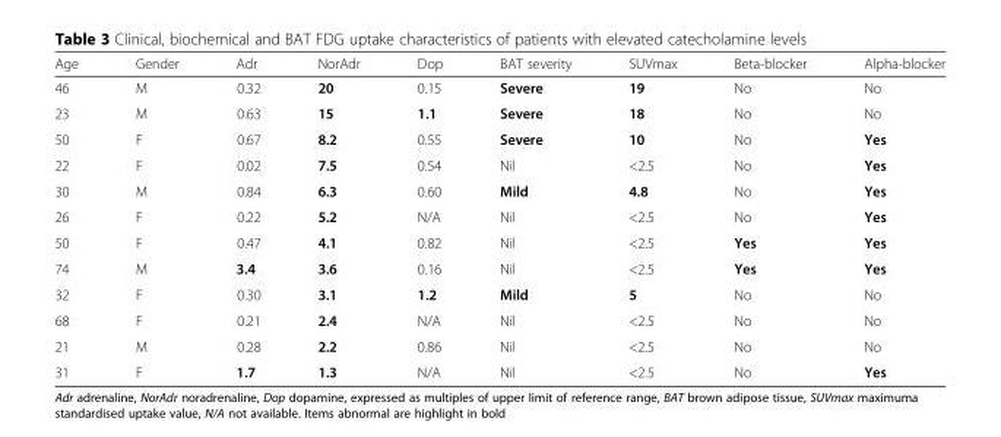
<table><thead><tr><td>Age</td><td>Gender</td><td>Adr</td><td>NorAdr</td><td>Dop</td><td>BAT severity</td><td>SUVmax</td><td>Beta-blocker</td><td>Alpha-blocker</td></tr></thead><tbody><tr><td>46</td><td>M</td><td>0.32</td><td>20</td><td>0.15</td><td>Severe</td><td>19</td><td>No</td><td>No</td></tr><tr><td>23</td><td>M</td><td>0.63</td><td>15</td><td>1.1</td><td>Severe</td><td>18</td><td>No</td><td>No</td></tr><tr><td>50</td><td>F</td><td>0.67</td><td>8.2</td><td>0.55</td><td>Severe</td><td>10</td><td>No</td><td>Yes</td></tr><tr><td>22</td><td>F</td><td>0.02</td><td>7.5</td><td>0.54</td><td>Nil</td><td>&lt;2.5</td><td>No</td><td>Yes</td></tr><tr><td>30</td><td>M</td><td>0.84</td><td>6.3</td><td>0.60</td><td>Mild</td><td>4.8</td><td>No</td><td>Yes</td></tr><tr><td>26</td><td>F</td><td>0.22</td><td>5.2</td><td>N/A</td><td>Nil</td><td>&lt;2.5</td><td>No</td><td>Yes</td></tr><tr><td>50</td><td>F</td><td>0.47</td><td>4.1</td><td>0.82</td><td>Nil</td><td>&lt;2.5</td><td>Yes</td><td>Yes</td></tr><tr><td>74</td><td>M</td><td>3.4</td><td>3.6</td><td>0.16</td><td>Nil</td><td>&lt;2.5</td><td>Yes</td><td>Yes</td></tr><tr><td>32</td><td>F</td><td>0.30</td><td>3.1</td><td>1.2</td><td>Mild</td><td>5</td><td>No</td><td>No</td></tr><tr><td>68</td><td>F</td><td>0.21</td><td>2.4</td><td>N/A</td><td>Nil</td><td>&lt;2.5</td><td>No</td><td>No</td></tr><tr><td>21</td><td>M</td><td>0.28</td><td>2.2</td><td>0.86</td><td>Nil</td><td>&lt;2.5</td><td>No</td><td>No</td></tr><tr><td>31</td><td>F</td><td>1.7</td><td>1.3</td><td>N/A</td><td>Nil</td><td>&lt;2.5</td><td>No</td><td>Yes</td></tr></tbody></table>